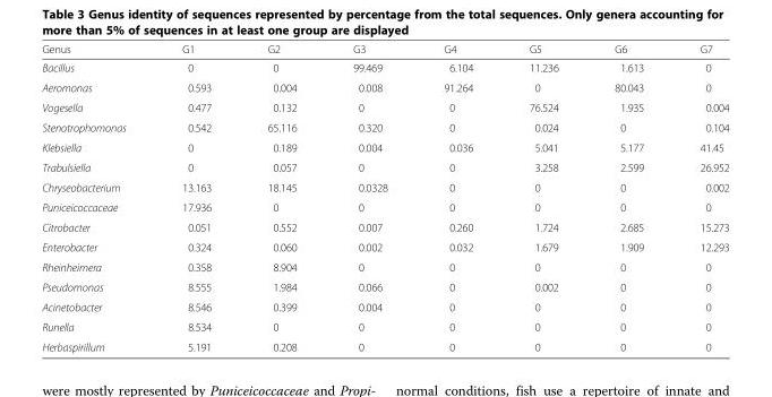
<table><thead><tr><td>Genus</td><td>G1</td><td>G2</td><td>G3</td><td>G4</td><td>G5</td><td>G6</td><td>G7</td></tr></thead><tbody><tr><td>Bacillus</td><td>0</td><td>0</td><td>99.469</td><td>6.104</td><td>11.236</td><td>1.613</td><td>0</td></tr><tr><td>Aeromonas</td><td>0.593</td><td>0.004</td><td>0.008</td><td>91.264</td><td>0</td><td>80.043</td><td>0</td></tr><tr><td>Vogesella</td><td>0.477</td><td>0.132</td><td>0</td><td>0</td><td>76.524</td><td>1.935</td><td>0.004</td></tr><tr><td>Stenotrophomonas</td><td>0.542</td><td>65.116</td><td>0.320</td><td>0</td><td>0.024</td><td>0</td><td>0.104</td></tr><tr><td>Klebsiella</td><td>0</td><td>0.189</td><td>0.004</td><td>0.036</td><td>5.041</td><td>5.177</td><td>41.45</td></tr><tr><td>Trabulsiella</td><td>0</td><td>0.057</td><td>0</td><td>0</td><td>3.258</td><td>2.599</td><td>26.952</td></tr><tr><td>Chryseobacterium</td><td>13.163</td><td>18.145</td><td>0.0328</td><td>0</td><td>0</td><td>0</td><td>0.002</td></tr><tr><td>Puniceicoccaceae</td><td>17.936</td><td>0</td><td>0</td><td>0</td><td>0</td><td>0</td><td>0</td></tr><tr><td>Citrobacter</td><td>0.051</td><td>0.552</td><td>0.007</td><td>0.260</td><td>1.724</td><td>2.685</td><td>15.273</td></tr><tr><td>Enterobacter</td><td>0.324</td><td>0.060</td><td>0.002</td><td>0.032</td><td>1.679</td><td>1.909</td><td>12.293</td></tr><tr><td>Rheinheimera</td><td>0.358</td><td>8.904</td><td>0</td><td>0</td><td>0</td><td>0</td><td>0</td></tr><tr><td>Pseudomonas</td><td>8.555</td><td>1.984</td><td>0.066</td><td>0</td><td>0.002</td><td>0</td><td>0</td></tr><tr><td>Acinetobacter</td><td>8.546</td><td>0.399</td><td>0.004</td><td>0</td><td>0</td><td>0</td><td>0</td></tr><tr><td>Runella</td><td>8.534</td><td>0</td><td>0</td><td>0</td><td>0</td><td>0</td><td>0</td></tr><tr><td>Herbaspirillum</td><td>5.191</td><td>0.208</td><td>0</td><td>0</td><td>0</td><td>0</td><td>0</td></tr></tbody></table>